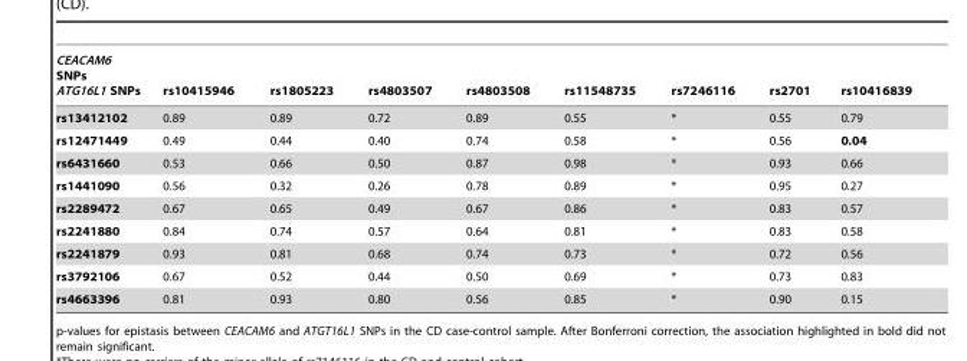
<table><thead><tr><td>CEACAM6 SNPs ATG16L1 SNPs</td><td>rs10415946</td><td>rs1805223</td><td>rs4803507</td><td>rs4803508</td><td>rs11548735</td><td>rs7246116</td><td>rs2701</td><td>rs10416839</td></tr></thead><tbody><tr><td>rs13412102</td><td>0.89</td><td>0.89</td><td>0.72</td><td>0.89</td><td>0.55</td><td>*</td><td>0.55</td><td>0.79</td></tr><tr><td>rs12471449</td><td>0.49</td><td>0.44</td><td>0.40</td><td>0.74</td><td>0.58</td><td>*</td><td>0.56</td><td>0.04</td></tr><tr><td>rs6431660</td><td>0.53</td><td>0.66</td><td>0.50</td><td>0.87</td><td>0.98</td><td>*</td><td>0.93</td><td>0.66</td></tr><tr><td>rs1441090</td><td>0.56</td><td>0.32</td><td>0.26</td><td>0.78</td><td>0.89</td><td>*</td><td>0.95</td><td>0.27</td></tr><tr><td>rs2289472</td><td>0.67</td><td>0.65</td><td>0.49</td><td>0.67</td><td>0.86</td><td>*</td><td>0.83</td><td>0.57</td></tr><tr><td>rs2241880</td><td>0.84</td><td>0.74</td><td>0.57</td><td>0.64</td><td>0.81</td><td>*</td><td>0.83</td><td>0.58</td></tr><tr><td>rs2241879</td><td>0.93</td><td>0.81</td><td>0.68</td><td>0.74</td><td>0.73</td><td>*</td><td>0.72</td><td>0.56</td></tr><tr><td>rs3792106</td><td>0.67</td><td>0.52</td><td>0.44</td><td>0.50</td><td>0.69</td><td>*</td><td>0.73</td><td>0.83</td></tr><tr><td>rs4663396</td><td>0.81</td><td>0.93</td><td>0.80</td><td>0.56</td><td>0.85</td><td>*</td><td>0.90</td><td>0.15</td></tr></tbody></table>